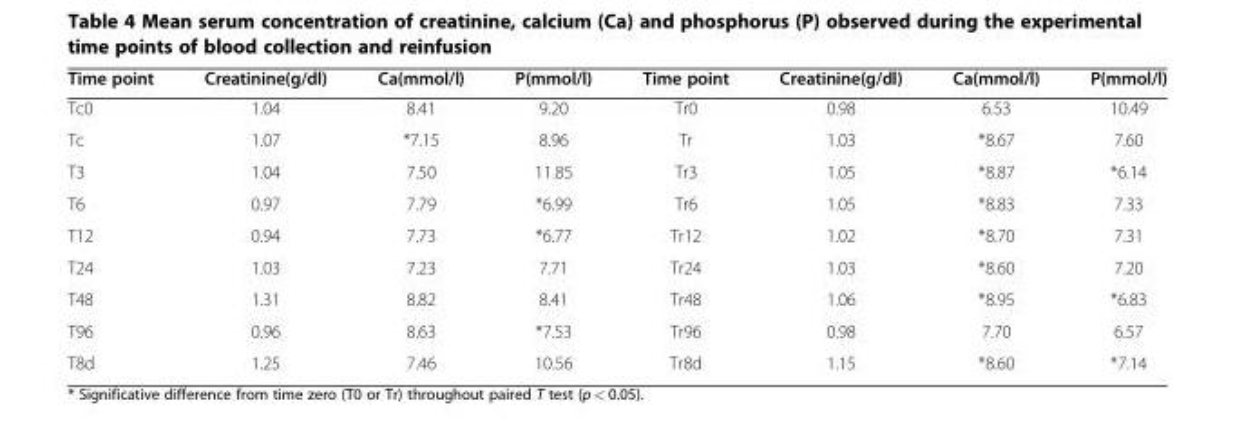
<table><thead><tr><td>Time point</td><td>Creatinine(g/dl)</td><td>Ca(mmol/l)</td><td>P(mmol/l)</td><td>Time point</td><td>Creatinine(g/dl)</td><td>Ca(mmol/l)</td><td>P(mmol/l)</td></tr></thead><tbody><tr><td>Tc0</td><td>1.04</td><td>8.41</td><td>9.20</td><td>Tr0</td><td>0.98</td><td>6.53</td><td>10.49</td></tr><tr><td>Tc</td><td>1.07</td><td>*7.15</td><td>8.96</td><td>Tr</td><td>1.03</td><td>*8.67</td><td>7.60</td></tr><tr><td>T3</td><td>1.04</td><td>7.50</td><td>11.85</td><td>Tr3</td><td>1.05</td><td>*8.87</td><td>*6.14</td></tr><tr><td>T6</td><td>0.97</td><td>7.79</td><td>*6.99</td><td>Tr6</td><td>1.05</td><td>*8.83</td><td>7.33</td></tr><tr><td>T12</td><td>0.94</td><td>7.73</td><td>*6.77</td><td>Tr12</td><td>1.02</td><td>*8.70</td><td>7.31</td></tr><tr><td>T24</td><td>1.03</td><td>7.23</td><td>7.71</td><td>Tr24</td><td>1.03</td><td>*8.60</td><td>7.20</td></tr><tr><td>T48</td><td>1.31</td><td>8.82</td><td>8.41</td><td>Tr48</td><td>1.06</td><td>*8.95</td><td>*6.83</td></tr><tr><td>T96</td><td>0.96</td><td>8.63</td><td>*7.53</td><td>Tr96</td><td>0.98</td><td>7.70</td><td>6.57</td></tr><tr><td>T8d</td><td>1.25</td><td>7.46</td><td>10.56</td><td>Tr8d</td><td>1.15</td><td>*8.60</td><td>*7.14</td></tr></tbody></table>